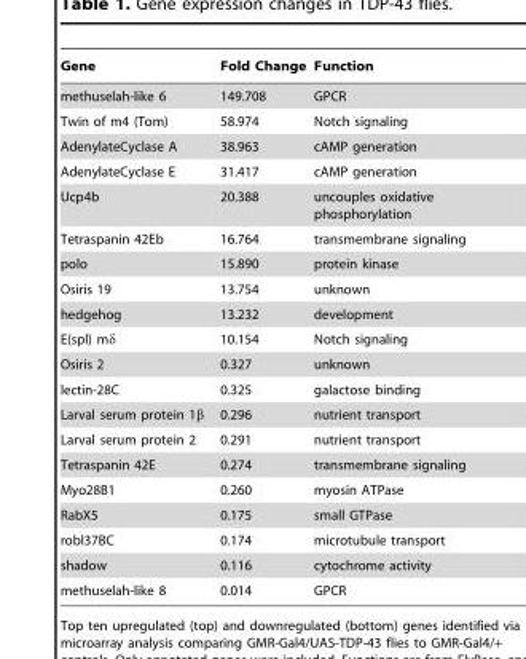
<table><thead><tr><td>Gene</td><td>Fold Change</td><td>Function</td></tr></thead><tbody><tr><td>methuselah-like 6</td><td>149.708</td><td>GPCR</td></tr><tr><td>Twin of m4 (Tom)</td><td>58.974</td><td>Notch signaling</td></tr><tr><td>AdenylateCyclase A</td><td>38.963</td><td>cAMP generation</td></tr><tr><td>AdenylateCyclase E</td><td>31.417</td><td>cAMP generation</td></tr><tr><td>Ucp4b</td><td>20.388</td><td>uncouples oxidative phosphorylation</td></tr><tr><td>Tetraspanin 42Eb</td><td>16.764</td><td>transmembrane signaling</td></tr><tr><td>polo</td><td>15.890</td><td>protein kinase</td></tr><tr><td>Osiris 19</td><td>13.754</td><td>unknown</td></tr><tr><td>hedgehog</td><td>13.232</td><td>development</td></tr><tr><td>E(spl) mδ</td><td>10.154</td><td>Notch signaling</td></tr><tr><td>Osiris 2</td><td>0.327</td><td>unknown</td></tr><tr><td>lectin-28C</td><td>0.325</td><td>galactose binding</td></tr><tr><td>Larval serum protein 1β</td><td>0.296</td><td>nutrient transport</td></tr><tr><td>Larval serum protein 2</td><td>0.291</td><td>nutrient transport</td></tr><tr><td>Tetraspanin 42E</td><td>0.274</td><td>transmembrane signaling</td></tr><tr><td>Myo28B1</td><td>0.260</td><td>myosin ATPase</td></tr><tr><td>RabX5</td><td>0.175</td><td>small GTPase</td></tr><tr><td>robl37BC</td><td>0.174</td><td>microtubule transport</td></tr><tr><td>shadow</td><td>0.116</td><td>cytochrome activity</td></tr><tr><td>methuselah-like 8</td><td>0.014</td><td>GPCR</td></tr></tbody></table>